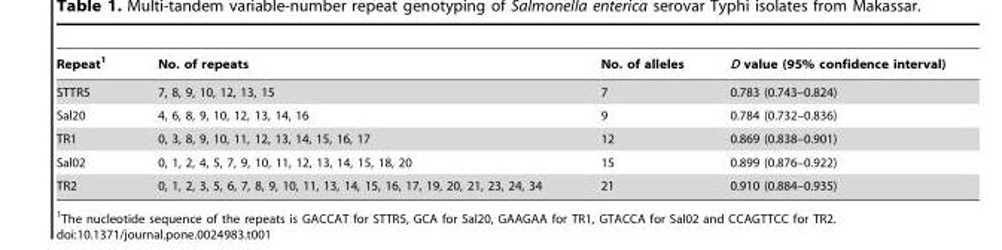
<table><thead><tr><td>Repeat<sup>1</sup></td><td>No. of repeats</td><td>No. of alleles</td><td>D value (95% confidence interval)</td></tr></thead><tbody><tr><td>STTR5</td><td>7, 8, 9, 10, 12, 13, 15</td><td>7</td><td>0.783 (0.743–0.824)</td></tr><tr><td>Sal20</td><td>4, 6, 8, 9, 10, 12, 13, 14, 16</td><td>9</td><td>0.784 (0.732–0.836)</td></tr><tr><td>TR1</td><td>0, 3, 8, 9, 10, 11, 12, 13, 14, 15, 16, 17</td><td>12</td><td>0.869 (0.838–0.901)</td></tr><tr><td>Sal02</td><td>0, 1, 2, 4, 5, 7, 9, 10, 11, 12, 13, 14, 15, 18, 20</td><td>15</td><td>0.899 (0.876–0.922)</td></tr><tr><td>TR2</td><td>0, 1, 2, 3, 5, 6, 7, 8, 9, 10, 11, 13, 14, 15, 16, 17, 19, 20, 21, 23, 24, 34</td><td>21</td><td>0.910 (0.884–0.935)</td></tr></tbody></table>